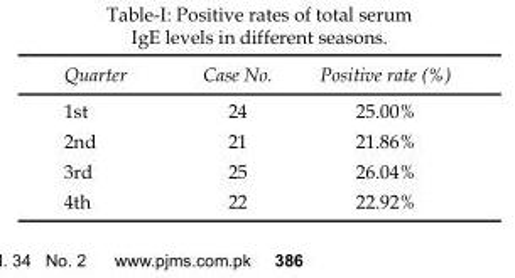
<table><thead><tr><td>Quarter</td><td>Case No.</td><td>Positive rate (%)</td></tr></thead><tbody><tr><td>1st</td><td>24</td><td>25.00%</td></tr><tr><td>2nd</td><td>21</td><td>21.86%</td></tr><tr><td>3rd</td><td>25</td><td>26.04%</td></tr><tr><td>4th</td><td>22</td><td>22.92%</td></tr></tbody></table>